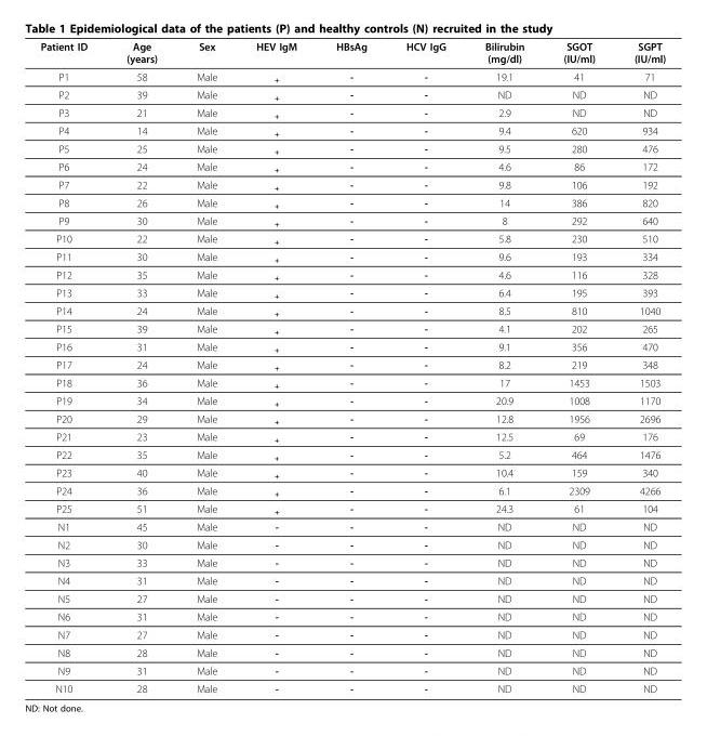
<table><thead><tr><td>Patient ID</td><td>Age (years)</td><td>Sex</td><td>HEV IgM</td><td>HBsAg</td><td>HCV IgG</td><td>Bilirubin (mg/dl)</td><td>SGOT (IU/ml)</td><td>SGPT (IU/ml)</td></tr></thead><tbody><tr><td>P1</td><td>58</td><td>Male</td><td><sub>+</sub></td><td>-</td><td>-</td><td>19.1</td><td>41</td><td>71</td></tr><tr><td>P2</td><td>39</td><td>Male</td><td><sub>+</sub></td><td>-</td><td>-</td><td>ND</td><td>ND</td><td>ND</td></tr><tr><td>P3</td><td>21</td><td>Male</td><td><sub>+</sub></td><td>-</td><td>-</td><td>2.9</td><td>ND</td><td>ND</td></tr><tr><td>P4</td><td>14</td><td>Male</td><td><sub>+</sub></td><td>-</td><td>-</td><td>9.4</td><td>620</td><td>934</td></tr><tr><td>P5</td><td>25</td><td>Male</td><td><sub>+</sub></td><td>-</td><td>-</td><td>9.5</td><td>280</td><td>476</td></tr><tr><td>P6</td><td>24</td><td>Male</td><td><sub>+</sub></td><td>-</td><td>-</td><td>4.6</td><td>86</td><td>172</td></tr><tr><td>P7</td><td>22</td><td>Male</td><td><sub>+</sub></td><td>-</td><td>-</td><td>9.8</td><td>106</td><td>192</td></tr><tr><td>P8</td><td>26</td><td>Male</td><td><sub>+</sub></td><td>-</td><td>-</td><td>14</td><td>386</td><td>820</td></tr><tr><td>P9</td><td>30</td><td>Male</td><td><sub>+</sub></td><td>-</td><td>-</td><td>8</td><td>292</td><td>640</td></tr><tr><td>P10</td><td>22</td><td>Male</td><td><sub>+</sub></td><td>-</td><td>-</td><td>5.8</td><td>230</td><td>510</td></tr><tr><td>P11</td><td>30</td><td>Male</td><td><sub>+</sub></td><td>-</td><td>-</td><td>9.6</td><td>193</td><td>334</td></tr><tr><td>P12</td><td>35</td><td>Male</td><td><sub>+</sub></td><td>-</td><td>-</td><td>4.6</td><td>116</td><td>328</td></tr><tr><td>P13</td><td>33</td><td>Male</td><td><sub>+</sub></td><td>-</td><td>-</td><td>6.4</td><td>195</td><td>393</td></tr><tr><td>P14</td><td>24</td><td>Male</td><td><sub>+</sub></td><td>-</td><td>-</td><td>8.5</td><td>810</td><td>1040</td></tr><tr><td>P15</td><td>39</td><td>Male</td><td><sub>+</sub></td><td>-</td><td>-</td><td>4.1</td><td>202</td><td>265</td></tr><tr><td>P16</td><td>31</td><td>Male</td><td><sub>+</sub></td><td>-</td><td>-</td><td>9.1</td><td>356</td><td>470</td></tr><tr><td>P17</td><td>24</td><td>Male</td><td><sub>+</sub></td><td>-</td><td>-</td><td>8.2</td><td>219</td><td>348</td></tr><tr><td>P18</td><td>36</td><td>Male</td><td><sub>+</sub></td><td>-</td><td>-</td><td>17</td><td>1453</td><td>1503</td></tr><tr><td>P19</td><td>34</td><td>Male</td><td><sub>+</sub></td><td>-</td><td>-</td><td>20.9</td><td>1008</td><td>1170</td></tr><tr><td>P20</td><td>29</td><td>Male</td><td><sub>+</sub></td><td>-</td><td>-</td><td>12.8</td><td>1956</td><td>2696</td></tr><tr><td>P21</td><td>23</td><td>Male</td><td><sub>+</sub></td><td>-</td><td>-</td><td>12.5</td><td>69</td><td>176</td></tr><tr><td>P22</td><td>35</td><td>Male</td><td><sub>+</sub></td><td>-</td><td>-</td><td>5.2</td><td>464</td><td>1476</td></tr><tr><td>P23</td><td>40</td><td>Male</td><td><sub>+</sub></td><td>-</td><td>-</td><td>10.4</td><td>159</td><td>340</td></tr><tr><td>P24</td><td>36</td><td>Male</td><td><sub>+</sub></td><td>-</td><td>-</td><td>6.1</td><td>2309</td><td>4266</td></tr><tr><td>P25</td><td>51</td><td>Male</td><td><sub>+</sub></td><td>-</td><td>-</td><td>24.3</td><td>61</td><td>104</td></tr><tr><td>N1</td><td>45</td><td>Male</td><td>-</td><td>-</td><td>-</td><td>ND</td><td>ND</td><td>ND</td></tr><tr><td>N2</td><td>30</td><td>Male</td><td>-</td><td>-</td><td>-</td><td>ND</td><td>ND</td><td>ND</td></tr><tr><td>N3</td><td>33</td><td>Male</td><td>-</td><td>-</td><td>-</td><td>ND</td><td>ND</td><td>ND</td></tr><tr><td>N4</td><td>31</td><td>Male</td><td>-</td><td>-</td><td>-</td><td>ND</td><td>ND</td><td>ND</td></tr><tr><td>N5</td><td>27</td><td>Male</td><td>-</td><td>-</td><td>-</td><td>ND</td><td>ND</td><td>ND</td></tr><tr><td>N6</td><td>31</td><td>Male</td><td>-</td><td>-</td><td>-</td><td>ND</td><td>ND</td><td>ND</td></tr><tr><td>N7</td><td>27</td><td>Male</td><td>-</td><td>-</td><td>-</td><td>ND</td><td>ND</td><td>ND</td></tr><tr><td>N8</td><td>28</td><td>Male</td><td>-</td><td>-</td><td>-</td><td>ND</td><td>ND</td><td>ND</td></tr><tr><td>N9</td><td>31</td><td>Male</td><td>-</td><td>-</td><td>-</td><td>ND</td><td>ND</td><td>ND</td></tr><tr><td>N10</td><td>28</td><td>Male</td><td>-</td><td>-</td><td>-</td><td>ND</td><td>ND</td><td>ND</td></tr></tbody></table>